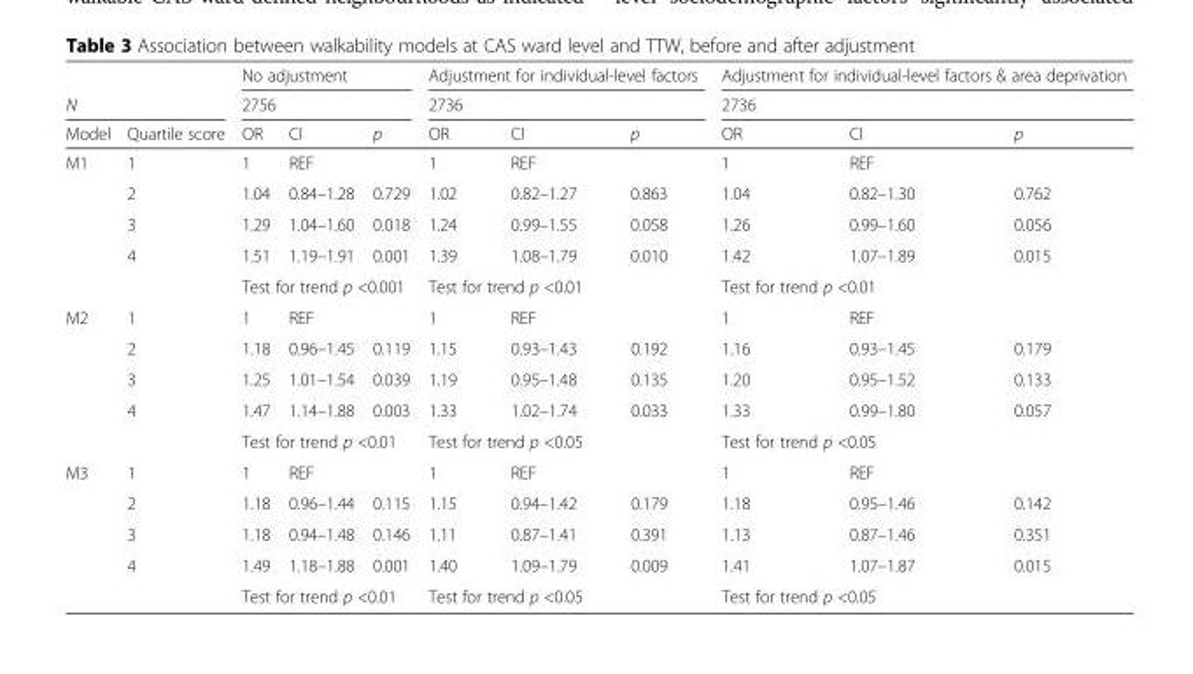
<table><thead><tr><td></td><td></td><td rowspan="2" colspan="3">No adjustment 2756</td><td rowspan="2" colspan="3">Adjustment for individual-level factors 2736</td><td rowspan="2" colspan="3">Adjustment for individual-level factors &amp; area deprivation 2736</td></tr><tr><td colspan="2">N</td></tr><tr><td>Model</td><td>Quartile score</td><td>OR</td><td>CI</td><td>p</td><td>OR</td><td>CI</td><td>p</td><td>OR</td><td>CI</td><td>p</td></tr></thead><tbody><tr><td rowspan="5">M1</td><td>1</td><td>1</td><td>REF</td><td></td><td>1</td><td>REF</td><td></td><td>1</td><td>REF</td><td></td></tr><tr><td>2</td><td>1.04</td><td>0.84–1.28</td><td>0.729</td><td>1.02</td><td>0.82–1.27</td><td>0.863</td><td>1.04</td><td>0.82–1.30</td><td>0.762</td></tr><tr><td>3</td><td>1.29</td><td>1.04–1.60</td><td>0.018</td><td>1.24</td><td>0.99–1.55</td><td>0.058</td><td>1.26</td><td>0.99–1.60</td><td>0.056</td></tr><tr><td>4</td><td>1.51</td><td>1.19–1.91</td><td>0.001</td><td>1.39</td><td>1.08–1.79</td><td>0.010</td><td>1.42</td><td>1.07–1.89</td><td>0.015</td></tr><tr><td></td><td colspan="3">Test for trend p &lt;0.001</td><td colspan="3">Test for trend p &lt;0.01</td><td colspan="3">Test for trend p &lt;0.01</td></tr><tr><td rowspan="5">M2</td><td>1</td><td>1</td><td>REF</td><td></td><td>1</td><td>REF</td><td></td><td>1</td><td>REF</td><td></td></tr><tr><td>2</td><td>1.18</td><td>0.96–1.45</td><td>0.119</td><td>1.15</td><td>0.93–1.43</td><td>0.192</td><td>1.16</td><td>0.93–1.45</td><td>0.179</td></tr><tr><td>3</td><td>1.25</td><td>1.01–1.54</td><td>0.039</td><td>1.19</td><td>0.95–1.48</td><td>0.135</td><td>1.20</td><td>0.95–1.52</td><td>0.133</td></tr><tr><td>4</td><td>1.47</td><td>1.14–1.88</td><td>0.003</td><td>1.33</td><td>1.02–1.74</td><td>0.033</td><td>1.33</td><td>0.99–1.80</td><td>0.057</td></tr><tr><td></td><td colspan="3">Test for trend p &lt;0.01</td><td colspan="3">Test for trend p &lt;0.05</td><td colspan="3">Test for trend p &lt;0.05</td></tr><tr><td rowspan="5">M3</td><td>1</td><td>1</td><td>REF</td><td></td><td>1</td><td>REF</td><td></td><td>1</td><td>REF</td><td></td></tr><tr><td>2</td><td>1.18</td><td>0.96–1.44</td><td>0.115</td><td>1.15</td><td>0.94–1.42</td><td>0.179</td><td>1.18</td><td>0.95–1.46</td><td>0.142</td></tr><tr><td>3</td><td>1.18</td><td>0.94–1.48</td><td>0.146</td><td>1.11</td><td>0.87–1.41</td><td>0.391</td><td>1.13</td><td>0.87–1.46</td><td>0.351</td></tr><tr><td>4</td><td>1.49</td><td>1.18–1.88</td><td>0.001</td><td>1.40</td><td>1.09–1.79</td><td>0.009</td><td>1.41</td><td>1.07–1.87</td><td>0.015</td></tr><tr><td></td><td colspan="3">Test for trend p &lt;0.01</td><td colspan="3">Test for trend p &lt;0.05</td><td colspan="3">Test for trend p &lt;0.05</td></tr></tbody></table>